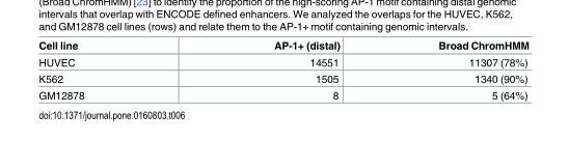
<table><thead><tr><td>Cell line</td><td>AP-1+ (distal)</td><td>Broad ChromHMM</td></tr></thead><tbody><tr><td>HUVEC</td><td>14551</td><td>11307 (78%)</td></tr><tr><td>K562</td><td>1505</td><td>1340 (90%)</td></tr><tr><td>GM12878</td><td>8</td><td>5 (64%)</td></tr></tbody></table>